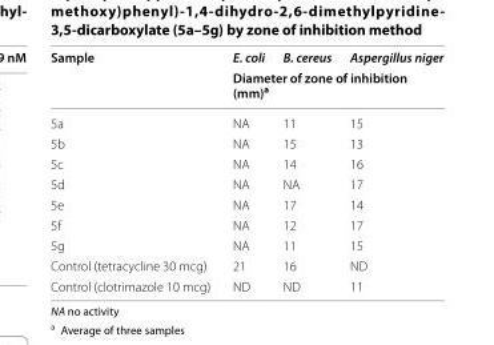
<table><thead><tr><td rowspan="2">Sample</td><td>E. coli</td><td>B. cereus</td><td>Aspergillus niger</td></tr><tr><td colspan="3">Diameter of zone of inhibition (mm)<sup>a</sup></td></tr></thead><tbody><tr><td>5a</td><td>NA</td><td>11</td><td>15</td></tr><tr><td>5b</td><td>NA</td><td>15</td><td>13</td></tr><tr><td>5c</td><td>NA</td><td>14</td><td>16</td></tr><tr><td>5d</td><td>NA</td><td>NA</td><td>17</td></tr><tr><td>5e</td><td>NA</td><td>17</td><td>14</td></tr><tr><td>5f</td><td>NA</td><td>12</td><td>17</td></tr><tr><td>5g</td><td>NA</td><td>11</td><td>15</td></tr><tr><td>Control (tetracycline 30 mcg)</td><td>21</td><td>16</td><td>ND</td></tr><tr><td>Control (clotrimazole 10 mcg)</td><td>ND</td><td>ND</td><td>11</td></tr></tbody></table>